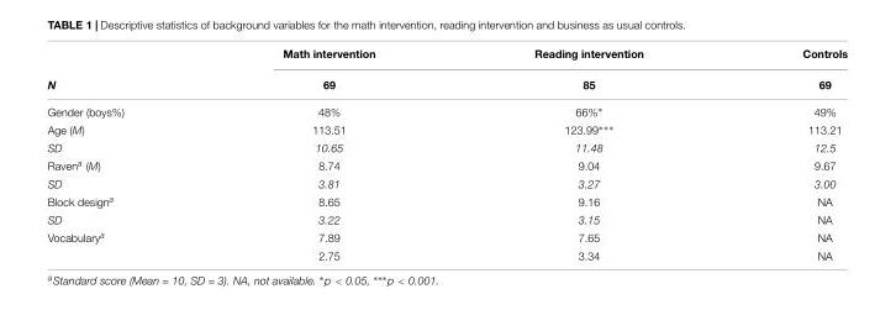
<table><thead><tr><td rowspan="2">N</td><td rowspan="2">Math intervention 69</td><td rowspan="2">Reading intervention 85</td><td rowspan="2">Controls 69</td></tr><tr></tr></thead><tbody><tr><td>Gender (boys%)</td><td>48%</td><td>66%∗</td><td>49%</td></tr><tr><td>Age (M)</td><td>113.51</td><td>123.99∗∗∗</td><td>113.21</td></tr><tr><td>SD</td><td>10.65</td><td>11.48</td><td>12.5</td></tr><tr><td>Raven<sup>a</sup> (M)</td><td>8.74</td><td>9.04</td><td>9.67</td></tr><tr><td>SD</td><td>3.81</td><td>3.27</td><td>3.00</td></tr><tr><td>Block design<sup>a</sup></td><td>8.65</td><td>9.16</td><td>NA</td></tr><tr><td>SD</td><td>3.22</td><td>3.15</td><td>NA</td></tr><tr><td rowspan="2">Vocabulary<sup>a</sup></td><td>7.89</td><td>7.65</td><td>NA</td></tr><tr><td>2.75</td><td>3.34</td><td>NA</td></tr></tbody></table>